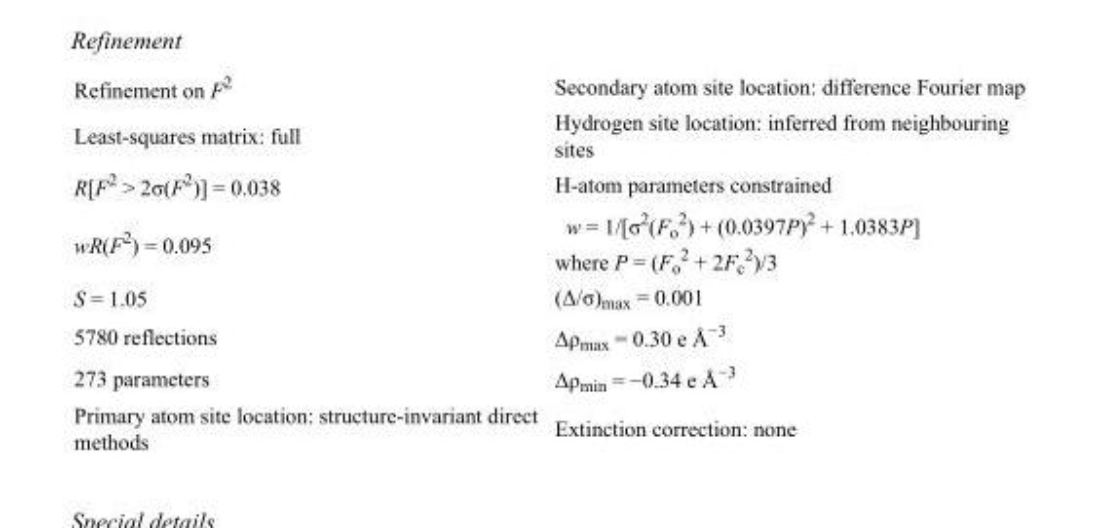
<table><tbody><tr><td>Refinement on F<sup>2</sup></td><td>Secondary atom site location: difference Fourier map</td></tr><tr><td>Least-squares matrix: full</td><td>Hydrogen site location: inferred from neighbouring sites</td></tr><tr><td>R[F<sup>2</sup> &gt; 2σ(F<sup>2</sup>)] = 0.038</td><td>H-atom parameters constrained</td></tr><tr><td>wR(F<sup>2</sup>) = 0.095</td><td>w = 1/[σ<sup>2</sup>(F<sub>o</sub> <sup>2</sup>) + (0.0397P)<sup>2</sup> + 1.0383P] where P = (F<sub>o</sub> <sup>2</sup> + 2F<sub>c</sub> <sup>2</sup>)/3</td></tr><tr><td>S = 1.05</td><td>(Δ/σ)<sub>max</sub> = 0.001</td></tr><tr><td>5780 reflections</td><td>Δρ<sub>max</sub> = 0.30 e Å<sup>−3</sup></td></tr><tr><td>273 parameters</td><td>Δρ<sub>min</sub> = −0.34 e Å<sup>−3</sup></td></tr><tr><td>Primary atom site location: structure-invariant direct methods</td><td>Extinction correction: none</td></tr></tbody></table>